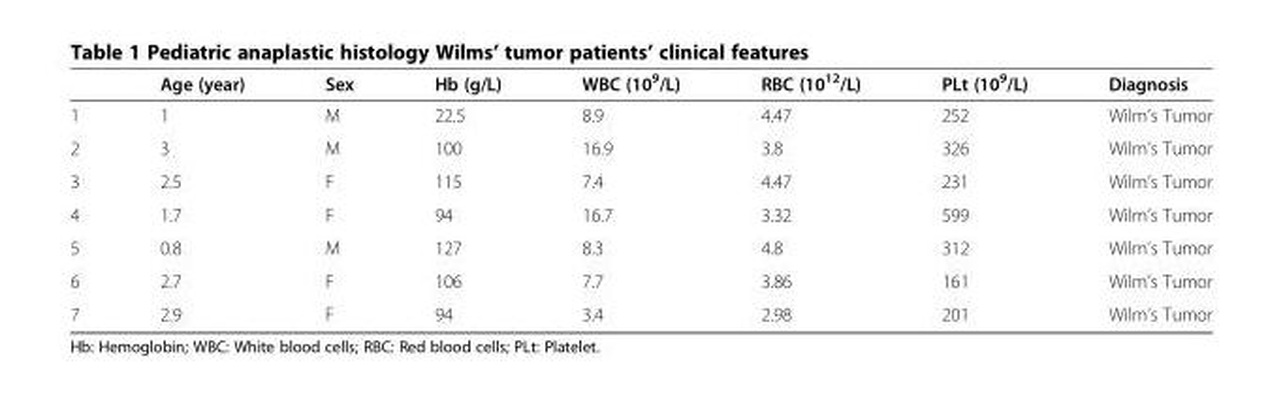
<table><thead><tr><td></td><td>Age (year)</td><td>Sex</td><td>Hb (g/L)</td><td>WBC (10<sup>9</sup>/L)</td><td>RBC (10<sup>12</sup>/L)</td><td>PLt (10<sup>9</sup>/L)</td><td>Diagnosis</td></tr></thead><tbody><tr><td>1</td><td>1</td><td>M</td><td>22.5</td><td>8.9</td><td>4.47</td><td>252</td><td>Wilm’s Tumor</td></tr><tr><td>2</td><td>3</td><td>M</td><td>100</td><td>16.9</td><td>3.8</td><td>326</td><td>Wilm’s Tumor</td></tr><tr><td>3</td><td>2.5</td><td>F</td><td>115</td><td>7.4</td><td>4.47</td><td>231</td><td>Wilm’s Tumor</td></tr><tr><td>4</td><td>1.7</td><td>F</td><td>94</td><td>16.7</td><td>3.32</td><td>599</td><td>Wilm’s Tumor</td></tr><tr><td>5</td><td>0.8</td><td>M</td><td>127</td><td>8.3</td><td>4.8</td><td>312</td><td>Wilm’s Tumor</td></tr><tr><td>6</td><td>2.7</td><td>F</td><td>106</td><td>7.7</td><td>3.86</td><td>161</td><td>Wilm’s Tumor</td></tr><tr><td>7</td><td>2.9</td><td>F</td><td>94</td><td>3.4</td><td>2.98</td><td>201</td><td>Wilm’s Tumor</td></tr></tbody></table>